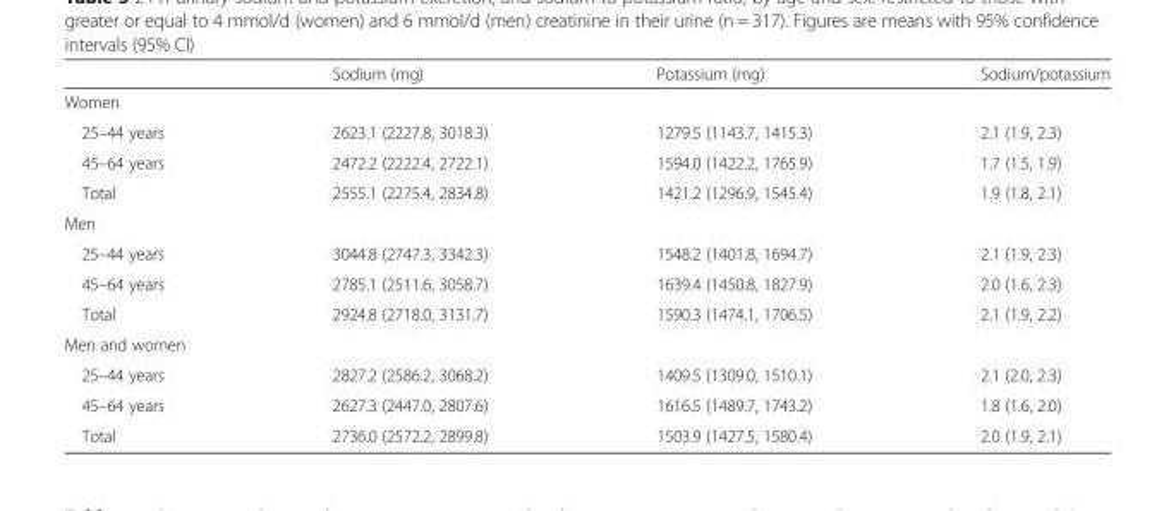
<table><thead><tr><td></td><td>Sodium (mg)</td><td>Potassium (mg)</td><td>Sodium/potassium</td></tr></thead><tbody><tr><td colspan="4">Women</td></tr><tr><td>25–44 years</td><td>2623.1 (2227.8, 3018.3)</td><td>1279.5 (1143.7, 1415.3)</td><td>2.1 (1.9, 2.3)</td></tr><tr><td>45–64 years</td><td>2472.2 (2222.4, 2722.1)</td><td>1594.0 (1422.2, 1765.9)</td><td>1.7 (1.5, 1.9)</td></tr><tr><td>Total</td><td>2555.1 (2275.4, 2834.8)</td><td>1421.2 (1296.9, 1545.4)</td><td>1.9 (1.8, 2.1)</td></tr><tr><td colspan="4">Men</td></tr><tr><td>25–44 years</td><td>3044.8 (2747.3, 3342.3)</td><td>1548.2 (1401.8, 1694.7)</td><td>2.1 (1.9, 2.3)</td></tr><tr><td>45–64 years</td><td>2785.1 (2511.6, 3058.7)</td><td>1639.4 (1450.8, 1827.9)</td><td>2.0 (1.6, 2.3)</td></tr><tr><td>Total</td><td>2924.8 (2718.0, 3131.7)</td><td>1590.3 (1474.1, 1706.5)</td><td>2.1 (1.9, 2.2)</td></tr><tr><td colspan="4">Men and women</td></tr><tr><td>25–44 years</td><td>2827.2 (2586.2, 3068.2)</td><td>1409.5 (1309.0, 1510.1)</td><td>2.1 (2.0, 2.3)</td></tr><tr><td>45–64 years</td><td>2627.3 (2447.0, 2807.6)</td><td>1616.5 (1489.7, 1743.2)</td><td>1.8 (1.6, 2.0)</td></tr><tr><td>Total</td><td>2736.0 (2572.2, 2899.8)</td><td>1503.9 (1427.5, 1580.4)</td><td>2.0 (1.9, 2.1)</td></tr></tbody></table>